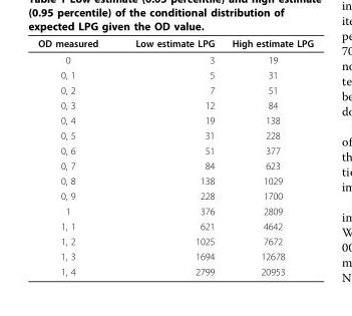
<table><thead><tr><td>OD measured</td><td>Low estimate LPG</td><td>High estimate LPG</td></tr></thead><tbody><tr><td>0</td><td>3</td><td>19</td></tr><tr><td>0, 1</td><td>5</td><td>31</td></tr><tr><td>0, 2</td><td>7</td><td>51</td></tr><tr><td>0, 3</td><td>12</td><td>84</td></tr><tr><td>0, 4</td><td>19</td><td>138</td></tr><tr><td>0, 5</td><td>31</td><td>228</td></tr><tr><td>0, 6</td><td>51</td><td>377</td></tr><tr><td>0, 7</td><td>84</td><td>623</td></tr><tr><td>0, 8</td><td>138</td><td>1029</td></tr><tr><td>0, 9</td><td>228</td><td>1700</td></tr><tr><td>1</td><td>376</td><td>2809</td></tr><tr><td>1, 1</td><td>621</td><td>4642</td></tr><tr><td>1, 2</td><td>1025</td><td>7672</td></tr><tr><td>1, 3</td><td>1694</td><td>12678</td></tr><tr><td>1, 4</td><td>2799</td><td>20953</td></tr></tbody></table>